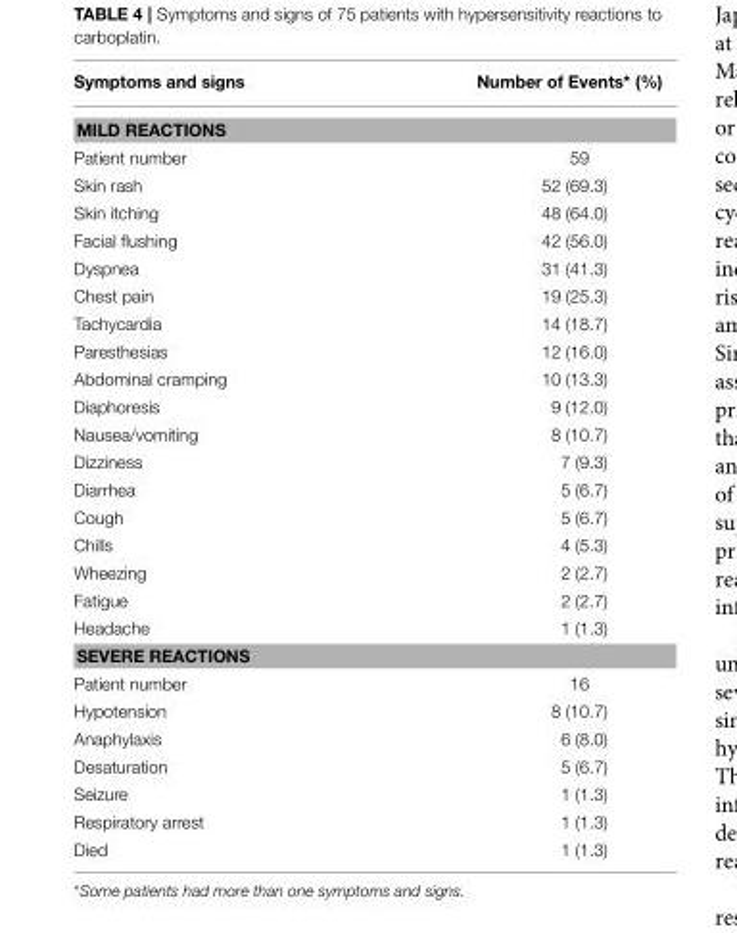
<table><thead><tr><td>Symptoms and signs</td><td>Number of Events* (%)</td></tr></thead><tbody><tr><td colspan="2">MILD REACTIONS</td></tr><tr><td>Patient number</td><td>59</td></tr><tr><td>Skin rash</td><td>52 (69.3)</td></tr><tr><td>Skin itching</td><td>48 (64.0)</td></tr><tr><td>Facial flushing</td><td>42 (56.0)</td></tr><tr><td>Dyspnea</td><td>31 (41.3)</td></tr><tr><td>Chest pain</td><td>19 (25.3)</td></tr><tr><td>Tachycardia</td><td>14 (18.7)</td></tr><tr><td>Paresthesias</td><td>12 (16.0)</td></tr><tr><td>Abdominal cramping</td><td>10 (13.3)</td></tr><tr><td>Diaphoresis</td><td>9 (12.0)</td></tr><tr><td>Nausea/vomiting</td><td>8 (10.7)</td></tr><tr><td>Dizziness</td><td>7 (9.3)</td></tr><tr><td>Diarrhea</td><td>5 (6.7)</td></tr><tr><td>Cough</td><td>5 (6.7)</td></tr><tr><td>Chills</td><td>4 (5.3)</td></tr><tr><td>Wheezing</td><td>2 (2.7)</td></tr><tr><td>Fatigue</td><td>2 (2.7)</td></tr><tr><td>Headache</td><td>1 (1.3)</td></tr><tr><td colspan="2">SEVERE REACTIONS</td></tr><tr><td>Patient number</td><td>16</td></tr><tr><td>Hypotension</td><td>8 (10.7)</td></tr><tr><td>Anaphylaxis</td><td>6 (8.0)</td></tr><tr><td>Desaturation</td><td>5 (6.7)</td></tr><tr><td>Seizure</td><td>1 (1.3)</td></tr><tr><td>Respiratory arrest</td><td>1 (1.3)</td></tr><tr><td>Died</td><td>1 (1.3)</td></tr></tbody></table>